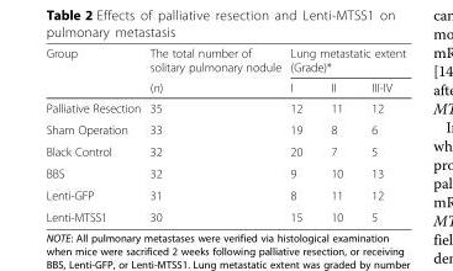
<table><thead><tr><td rowspan="2">Group</td><td rowspan="2">The total number of solitary pulmonary nodule (n)</td><td colspan="3">Lung metastatic extent (Grade)*</td></tr><tr><td>I</td><td>II</td><td>III-IV</td></tr></thead><tbody><tr><td>Palliative Resection</td><td>35</td><td>12</td><td>11</td><td>12</td></tr><tr><td>Sham Operation</td><td>33</td><td>19</td><td>8</td><td>6</td></tr><tr><td>Black Control</td><td>32</td><td>20</td><td>7</td><td>5</td></tr><tr><td>BBS</td><td>32</td><td>9</td><td>10</td><td>13</td></tr><tr><td>Lenti-GFP</td><td>31</td><td>8</td><td>11</td><td>12</td></tr><tr><td>Lenti-MTSS1</td><td>30</td><td>15</td><td>10</td><td>5</td></tr></tbody></table>